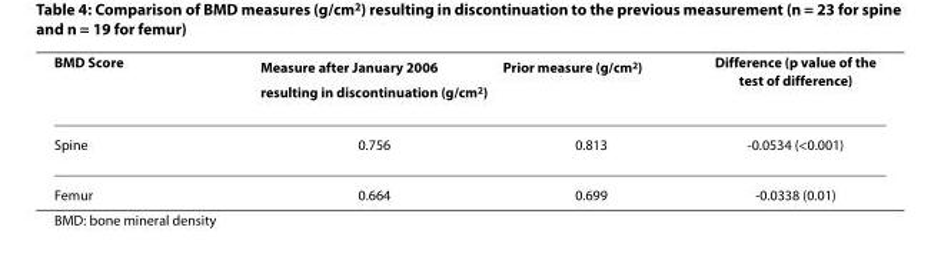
<table><thead><tr><td>BMD Score</td><td>Measure after January 2006 resulting in discontinuation (g/cm<sup>2</sup>)</td><td>Prior measure (g/cm<sup>2</sup>)</td><td>Difference (p value of the test of difference)</td></tr></thead><tbody><tr><td>Spine</td><td>0.756</td><td>0.813</td><td>-0.0534 (&lt;0.001)</td></tr><tr><td>Femur</td><td>0.664</td><td>0.699</td><td>-0.0338 (0.01)</td></tr></tbody></table>